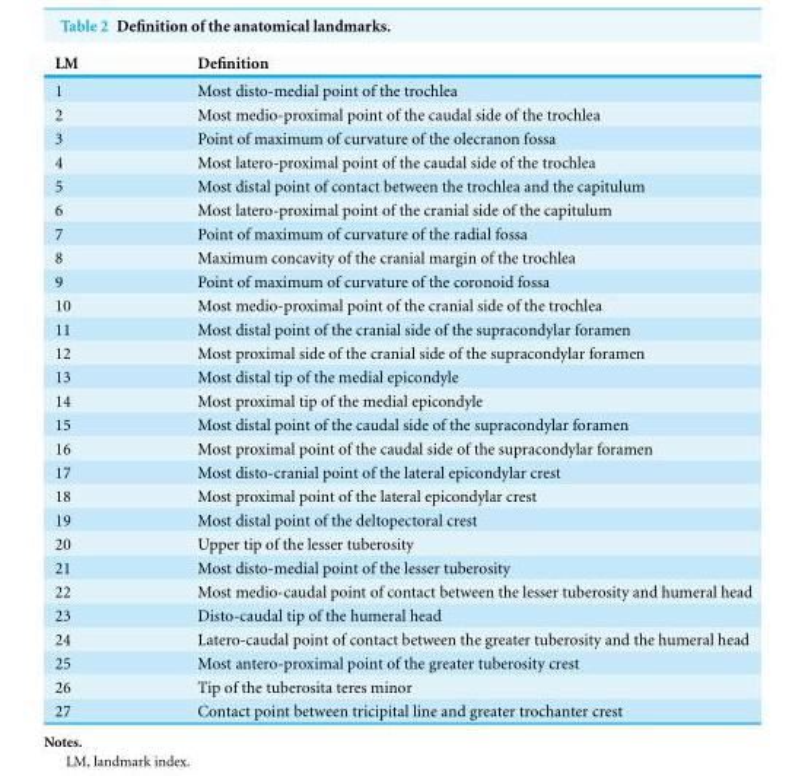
<table><thead><tr><td>LM</td><td>Definition</td></tr></thead><tbody><tr><td>1</td><td>Most disto-medial point of the trochlea</td></tr><tr><td>2</td><td>Most medio-proximal point of the caudal side of the trochlea</td></tr><tr><td>3</td><td>Point of maximum of curvature of the olecranon fossa</td></tr><tr><td>4</td><td>Most latero-proximal point of the caudal side of the trochlea</td></tr><tr><td>5</td><td>Most distal point of contact between the trochlea and the capitulum</td></tr><tr><td>6</td><td>Most latero-proximal point of the cranial side of the capitulum</td></tr><tr><td>7</td><td>Point of maximum of curvature of the radial fossa</td></tr><tr><td>8</td><td>Maximum concavity of the cranial margin of the trochlea</td></tr><tr><td>9</td><td>Point of maximum of curvature of the coronoid fossa</td></tr><tr><td>10</td><td>Most medio-proximal point of the cranial side of the trochlea</td></tr><tr><td>11</td><td>Most distal point of the cranial side of the supracondylar foramen</td></tr><tr><td>12</td><td>Most proximal side of the cranial side of the supracondylar foramen</td></tr><tr><td>13</td><td>Most distal tip of the medial epicondyle</td></tr><tr><td>14</td><td>Most proximal tip of the medial epicondyle</td></tr><tr><td>15</td><td>Most distal point of the caudal side of the supracondylar foramen</td></tr><tr><td>16</td><td>Most proximal point of the caudal side of the supracondylar foramen</td></tr><tr><td>17</td><td>Most disto-cranial point of the lateral epicondylar crest</td></tr><tr><td>18</td><td>Most proximal point of the lateral epicondylar crest</td></tr><tr><td>19</td><td>Most distal point of the deltopectoral crest</td></tr><tr><td>20</td><td>Upper tip of the lesser tuberosity</td></tr><tr><td>21</td><td>Most disto-medial point of the lesser tuberosity</td></tr><tr><td>22</td><td>Most medio-caudal point of contact between the lesser tuberosity and humeral head</td></tr><tr><td>23</td><td>Disto-caudal tip of the humeral head</td></tr><tr><td>24</td><td>Latero-caudal point of contact between the greater tuberosity and the humeral head</td></tr><tr><td>25</td><td>Most antero-proximal point of the greater tuberosity crest</td></tr><tr><td>26</td><td>Tip of the tuberosita teres minor</td></tr><tr><td>27</td><td>Contact point between tricipital line and greater trochanter crest</td></tr></tbody></table>